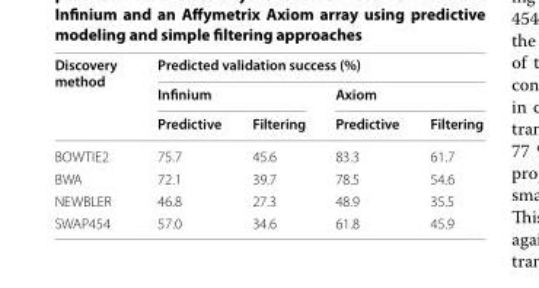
<table><thead><tr><td rowspan="3">Discovery method</td><td colspan="4">Predicted validation success (%)</td></tr><tr><td colspan="2">Infinium</td><td colspan="2">Axiom</td></tr><tr><td>Predictive</td><td>Filtering</td><td>Predictive</td><td>Filtering</td></tr></thead><tbody><tr><td>BOWTIE2</td><td>75.7</td><td>45.6</td><td>83.3</td><td>61.7</td></tr><tr><td>BWA</td><td>72.1</td><td>39.7</td><td>78.5</td><td>54.6</td></tr><tr><td>NEWBLER</td><td>46.8</td><td>27.3</td><td>48.9</td><td>35.5</td></tr><tr><td>SWAP454</td><td>57.0</td><td>34.6</td><td>61.8</td><td>45.9</td></tr></tbody></table>